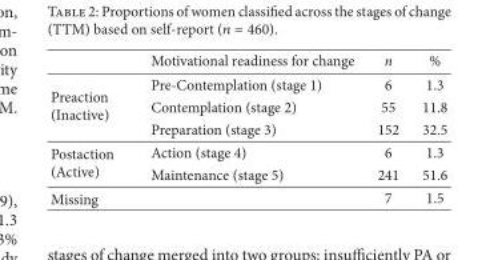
<table><thead><tr><td></td><td>Motivational readiness for change</td><td>n</td><td>%</td></tr></thead><tbody><tr><td rowspan="3">Preaction (Inactive)</td><td>Pre-Contemplation (stage 1)</td><td>6</td><td>1.3</td></tr><tr><td>Contemplation (stage 2)</td><td>55</td><td>11.8</td></tr><tr><td>Preparation (stage 3)</td><td>152</td><td>32.5</td></tr><tr><td rowspan="2">Postaction (Active)</td><td>Action (stage 4)</td><td>6</td><td>1.3</td></tr><tr><td>Maintenance (stage 5)</td><td>241</td><td>51.6</td></tr><tr><td>Missing</td><td></td><td>7</td><td>1.5</td></tr></tbody></table>